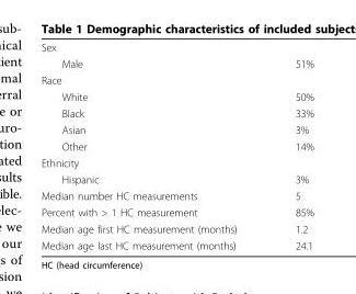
<table><tbody><tr><td colspan="2">Sex</td></tr><tr><td>Male</td><td>51%</td></tr><tr><td colspan="2">Race</td></tr><tr><td>White</td><td>50%</td></tr><tr><td>Black</td><td>33%</td></tr><tr><td>Asian</td><td>3%</td></tr><tr><td>Other</td><td>14%</td></tr><tr><td colspan="2">Ethnicity</td></tr><tr><td>Hispanic</td><td>3%</td></tr><tr><td>Median number HC measurements</td><td>5</td></tr><tr><td>Percent with &gt; 1 HC measurement</td><td>85%</td></tr><tr><td>Median age first HC measurement (months)</td><td>1.2</td></tr><tr><td>Median age last HC measurement (months)</td><td>24.1</td></tr></tbody></table>